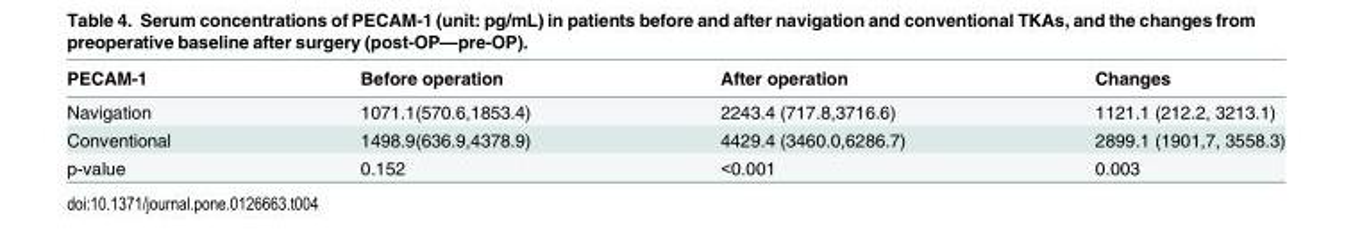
<table><thead><tr><td>PECAM-1</td><td>Before operation</td><td>After operation</td><td>Changes</td></tr></thead><tbody><tr><td>Navigation</td><td>1071.1(570.6,1853.4)</td><td>2243.4 (717.8,3716.6)</td><td>1121.1 (212.2, 3213.1)</td></tr><tr><td>Conventional</td><td>1498.9(636.9,4378.9)</td><td>4429.4 (3460.0,6286.7)</td><td>2899.1 (1901,7, 3558.3)</td></tr><tr><td>p-value</td><td>0.152</td><td>&lt;0.001</td><td>0.003</td></tr></tbody></table>